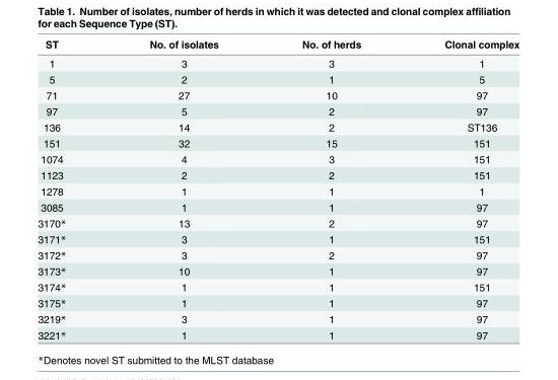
<table><thead><tr><td>ST</td><td>No. of isolates</td><td>No. of herds</td><td>Clonal complex</td></tr></thead><tbody><tr><td>1</td><td>3</td><td>3</td><td>1</td></tr><tr><td>5</td><td>2</td><td>1</td><td>5</td></tr><tr><td>71</td><td>27</td><td>10</td><td>97</td></tr><tr><td>97</td><td>5</td><td>2</td><td>97</td></tr><tr><td>136</td><td>14</td><td>2</td><td>ST136</td></tr><tr><td>151</td><td>32</td><td>15</td><td>151</td></tr><tr><td>1074</td><td>4</td><td>3</td><td>151</td></tr><tr><td>1123</td><td>2</td><td>2</td><td>151</td></tr><tr><td>1278</td><td>1</td><td>1</td><td>1</td></tr><tr><td>3085</td><td>1</td><td>1</td><td>97</td></tr><tr><td>3170*</td><td>13</td><td>2</td><td>97</td></tr><tr><td>3171*</td><td>3</td><td>1</td><td>151</td></tr><tr><td>3172*</td><td>3</td><td>2</td><td>97</td></tr><tr><td>3173*</td><td>10</td><td>1</td><td>97</td></tr><tr><td>3174*</td><td>1</td><td>1</td><td>151</td></tr><tr><td>3175*</td><td>1</td><td>1</td><td>97</td></tr><tr><td>3219*</td><td>3</td><td>1</td><td>97</td></tr><tr><td>3221*</td><td>1</td><td>1</td><td>97</td></tr></tbody></table>